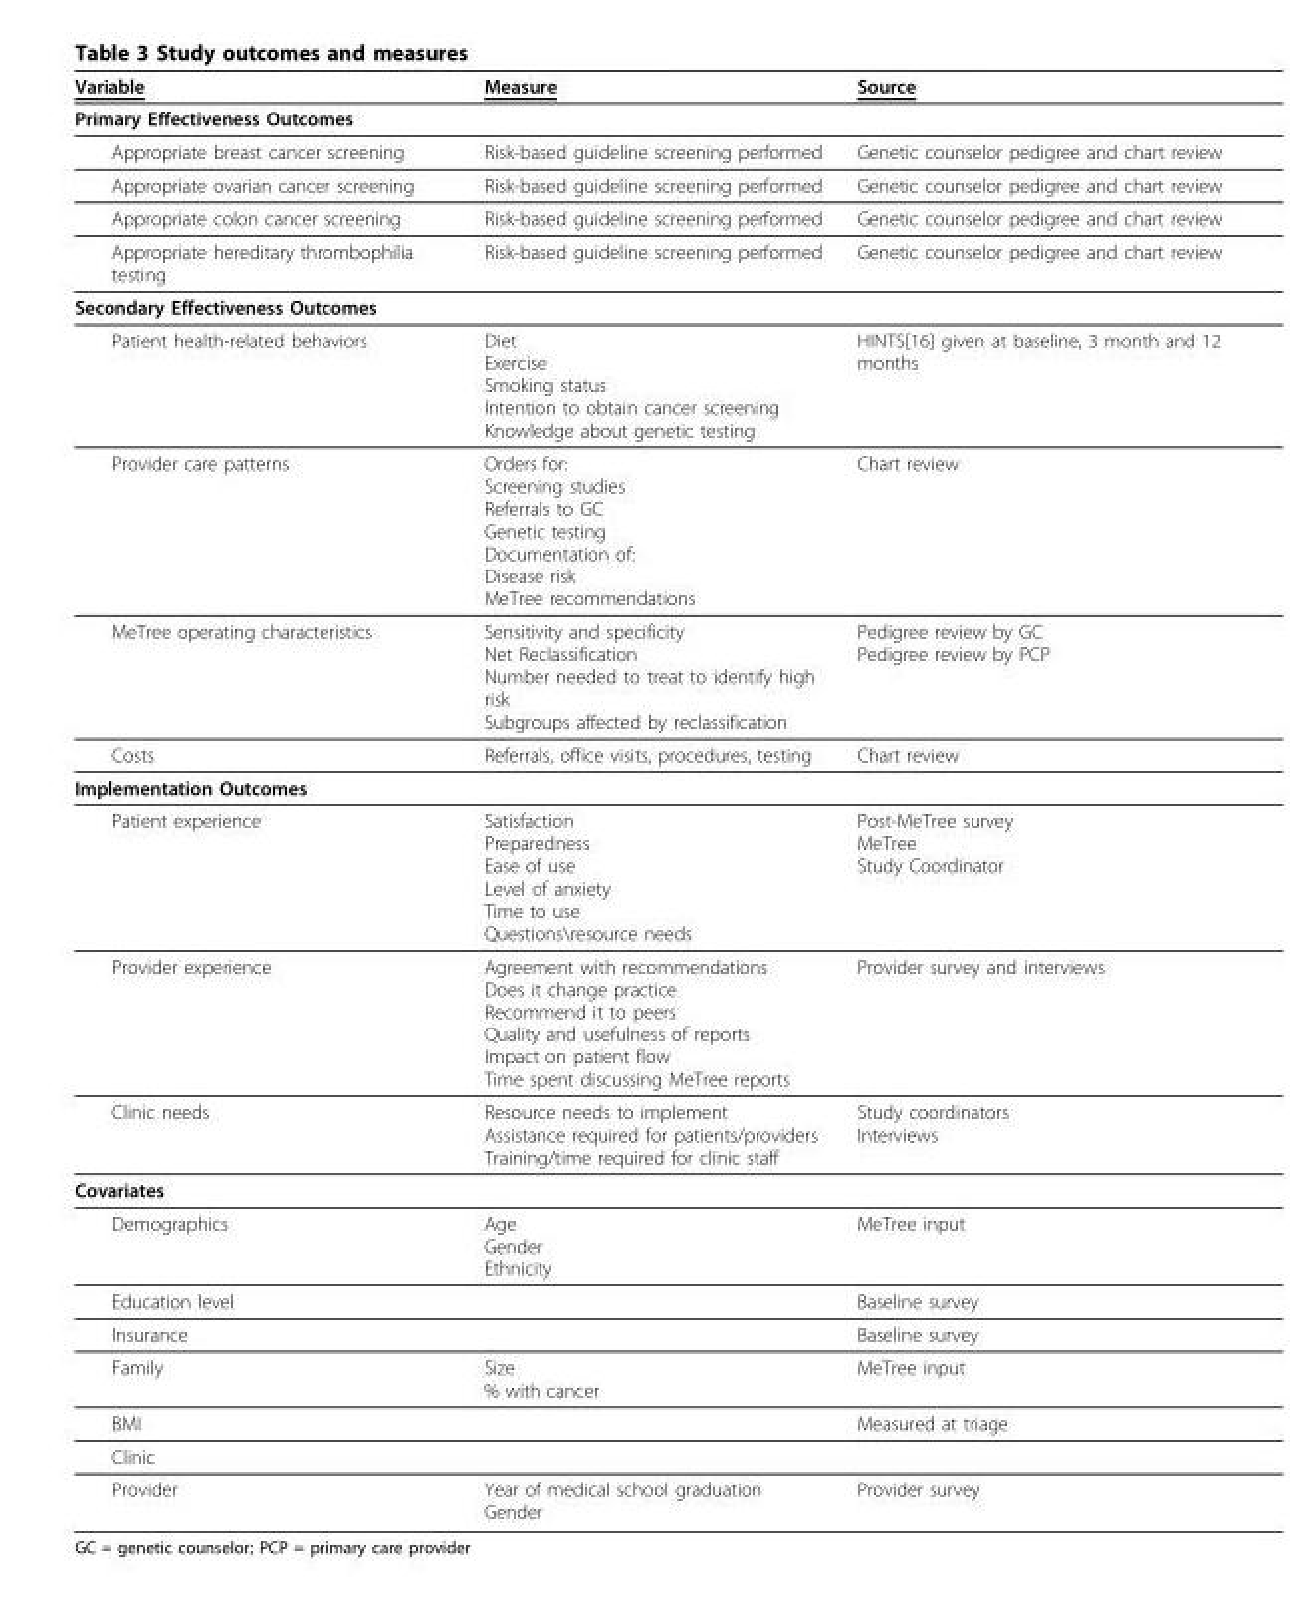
<table><thead><tr><td>Variable</td><td>Measure</td><td>Source</td></tr></thead><tbody><tr><td colspan="3">Primary Effectiveness Outcomes</td></tr><tr><td>Appropriate breast cancer screening</td><td>Risk-based guideline screening performed</td><td>Genetic counselor pedigree and chart review</td></tr><tr><td>Appropriate ovarian cancer screening</td><td>Risk-based guideline screening performed</td><td>Genetic counselor pedigree and chart review</td></tr><tr><td>Appropriate colon cancer screening</td><td>Risk-based guideline screening performed</td><td>Genetic counselor pedigree and chart review</td></tr><tr><td>Appropriate hereditary thrombophilia testing</td><td>Risk-based guideline screening performed</td><td>Genetic counselor pedigree and chart review</td></tr><tr><td colspan="3">Secondary Effectiveness Outcomes</td></tr><tr><td>Patient health-related behaviors</td><td>Diet Exercise Smoking status Intention to obtain cancer screening Knowledge about genetic testing</td><td>HINTS[16] given at baseline, 3 month and 12 months</td></tr><tr><td>Provider care patterns</td><td>Orders for: Screening studies Referrals to GC Genetic testing Documentation of: Disease risk MeTree recommendations</td><td>Chart review</td></tr><tr><td>MeTree operating characteristics</td><td>Sensitivity and specificity Net Reclassification Number needed to treat to identify high risk Subgroups affected by reclassification</td><td>Pedigree review by GC Pedigree review by PCP</td></tr><tr><td>Costs</td><td>Referrals, office visits, procedures, testing</td><td>Chart review</td></tr><tr><td colspan="3">Implementation Outcomes</td></tr><tr><td>Patient experience</td><td>Satisfaction Preparedness Ease of use Level of anxiety Time to use Questions\resource needs</td><td>Post-MeTree survey MeTree Study Coordinator</td></tr><tr><td>Provider experience</td><td>Agreement with recommendations Does it change practice Recommend it to peers Quality and usefulness of reports Impact on patient flow Time spent discussing MeTree reports</td><td>Provider survey and interviews</td></tr><tr><td>Clinic needs</td><td>Resource needs to implement Assistance required for patients/providers Training/time required for clinic staff</td><td>Study coordinators Interviews</td></tr><tr><td colspan="3">Covariates</td></tr><tr><td>Demographics</td><td>Age Gender Ethnicity</td><td>MeTree input</td></tr><tr><td>Education level</td><td></td><td>Baseline survey</td></tr><tr><td>Insurance</td><td></td><td>Baseline survey</td></tr><tr><td>Family</td><td>Size % with cancer</td><td>MeTree input</td></tr><tr><td>BMI</td><td></td><td>Measured at triage</td></tr><tr><td colspan="3">Clinic</td></tr><tr><td>Provider</td><td>Year of medical school graduation Gender</td><td>Provider survey</td></tr></tbody></table>